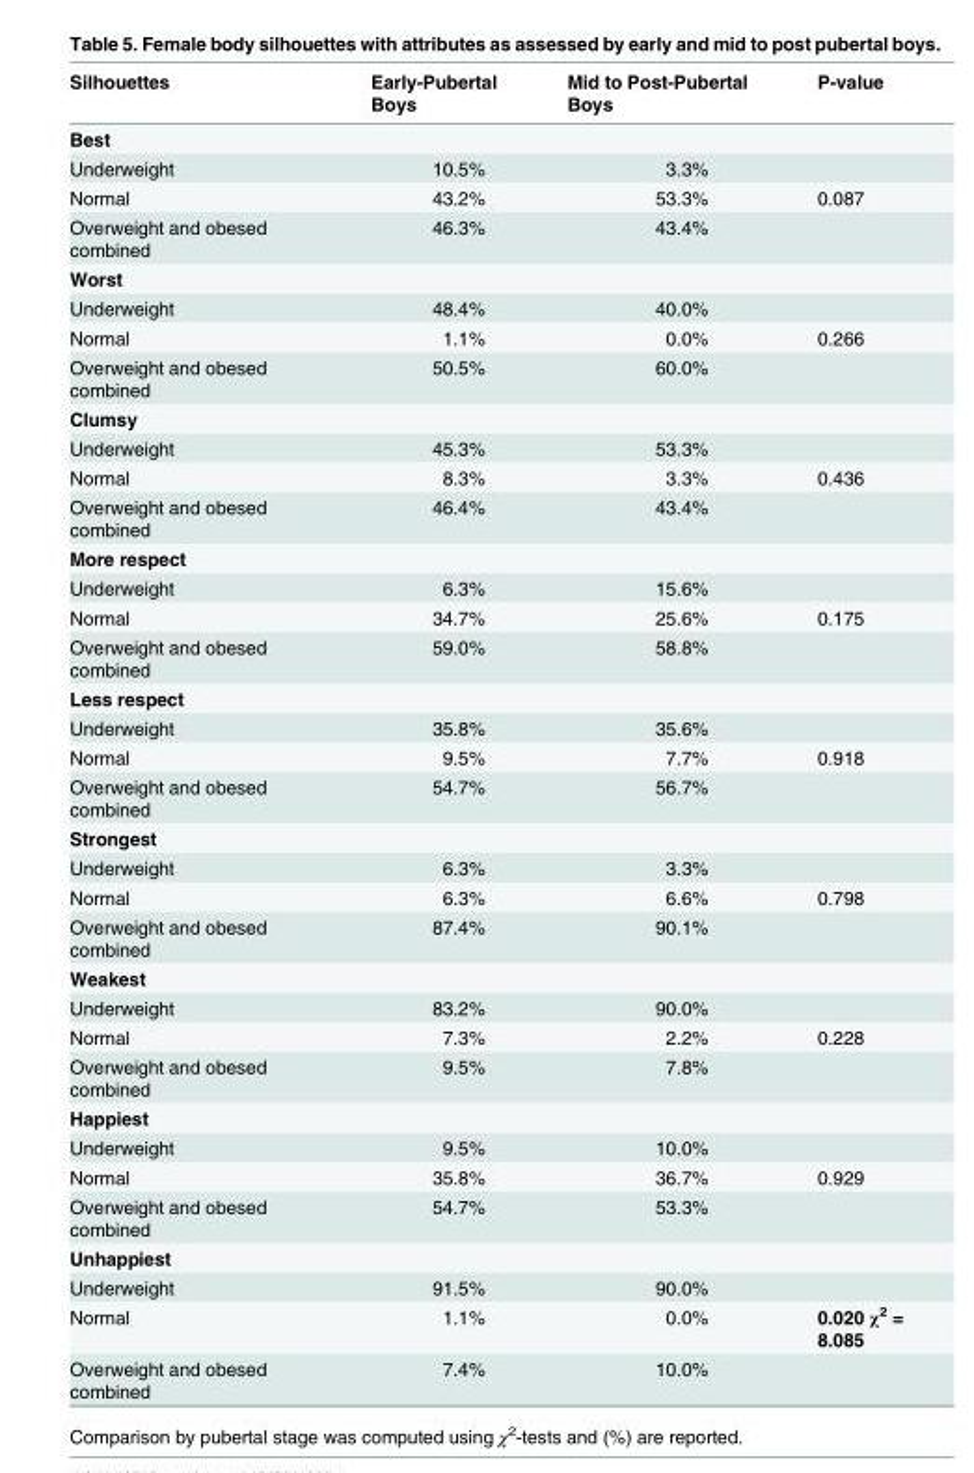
<table><thead><tr><td>Silhouettes</td><td>Early-Pubertal Boys</td><td>Mid to Post-Pubertal Boys</td><td>P-value</td></tr></thead><tbody><tr><td colspan="4">Best</td></tr><tr><td>Underweight</td><td>10.5%</td><td>3.3%</td><td></td></tr><tr><td>Normal</td><td>43.2%</td><td>53.3%</td><td>0.087</td></tr><tr><td>Overweight and obesed combined</td><td>46.3%</td><td>43.4%</td><td></td></tr><tr><td colspan="4">Worst</td></tr><tr><td>Underweight</td><td>48.4%</td><td>40.0%</td><td></td></tr><tr><td>Normal</td><td>1.1%</td><td>0.0%</td><td>0.266</td></tr><tr><td>Overweight and obesed combined</td><td>50.5%</td><td>60.0%</td><td></td></tr><tr><td colspan="4">Clumsy</td></tr><tr><td>Underweight</td><td>45.3%</td><td>53.3%</td><td></td></tr><tr><td>Normal</td><td>8.3%</td><td>3.3%</td><td>0.436</td></tr><tr><td>Overweight and obesed combined</td><td>46.4%</td><td>43.4%</td><td></td></tr><tr><td colspan="4">More respect</td></tr><tr><td>Underweight</td><td>6.3%</td><td>15.6%</td><td></td></tr><tr><td>Normal</td><td>34.7%</td><td>25.6%</td><td>0.175</td></tr><tr><td>Overweight and obesed combined</td><td>59.0%</td><td>58.8%</td><td></td></tr><tr><td colspan="4">Less respect</td></tr><tr><td>Underweight</td><td>35.8%</td><td>35.6%</td><td></td></tr><tr><td>Normal</td><td>9.5%</td><td>7.7%</td><td>0.918</td></tr><tr><td>Overweight and obesed combined</td><td>54.7%</td><td>56.7%</td><td></td></tr><tr><td colspan="4">Strongest</td></tr><tr><td>Underweight</td><td>6.3%</td><td>3.3%</td><td></td></tr><tr><td>Normal</td><td>6.3%</td><td>6.6%</td><td>0.798</td></tr><tr><td>Overweight and obesed combined</td><td>87.4%</td><td>90.1%</td><td></td></tr><tr><td colspan="4">Weakest</td></tr><tr><td>Underweight</td><td>83.2%</td><td>90.0%</td><td></td></tr><tr><td>Normal</td><td>7.3%</td><td>2.2%</td><td>0.228</td></tr><tr><td>Overweight and obesed combined</td><td>9.5%</td><td>7.8%</td><td></td></tr><tr><td colspan="4">Happiest</td></tr><tr><td>Underweight</td><td>9.5%</td><td>10.0%</td><td></td></tr><tr><td>Normal</td><td>35.8%</td><td>36.7%</td><td>0.929</td></tr><tr><td>Overweight and obesed combined</td><td>54.7%</td><td>53.3%</td><td></td></tr><tr><td colspan="4">Unhappiest</td></tr><tr><td>Underweight</td><td>91.5%</td><td>90.0%</td><td></td></tr><tr><td>Normal</td><td>1.1%</td><td>0.0%</td><td>0.020 χ<sup>2</sup> = 8.085</td></tr><tr><td>Overweight and obesed combined</td><td>7.4%</td><td>10.0%</td><td></td></tr></tbody></table>